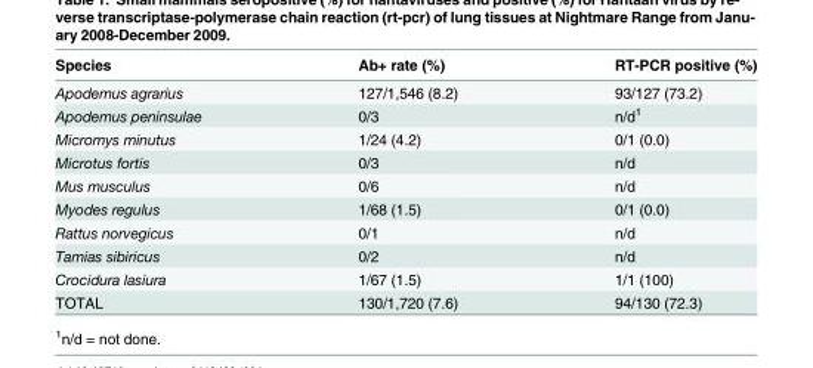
<table><thead><tr><td>Species</td><td>Ab+ rate (%)</td><td>RT-PCR positive (%)</td></tr></thead><tbody><tr><td>Apodemus agrarius</td><td>127/1,546 (8.2)</td><td>93/127 (73.2)</td></tr><tr><td>Apodemus peninsulae</td><td>0/3</td><td>n/d<sup>1</sup></td></tr><tr><td>Micromys minutus</td><td>1/24 (4.2)</td><td>0/1 (0.0)</td></tr><tr><td>Microtus fortis</td><td>0/3</td><td>n/d</td></tr><tr><td>Mus musculus</td><td>0/6</td><td>n/d</td></tr><tr><td>Myodes regulus</td><td>1/68 (1.5)</td><td>0/1 (0.0)</td></tr><tr><td>Rattus norvegicus</td><td>0/1</td><td>n/d</td></tr><tr><td>Tamias sibiricus</td><td>0/2</td><td>n/d</td></tr><tr><td>Crocidura lasiura</td><td>1/67 (1.5)</td><td>1/1 (100)</td></tr><tr><td>TOTAL</td><td>130/1,720 (7.6)</td><td>94/130 (72.3)</td></tr></tbody></table>